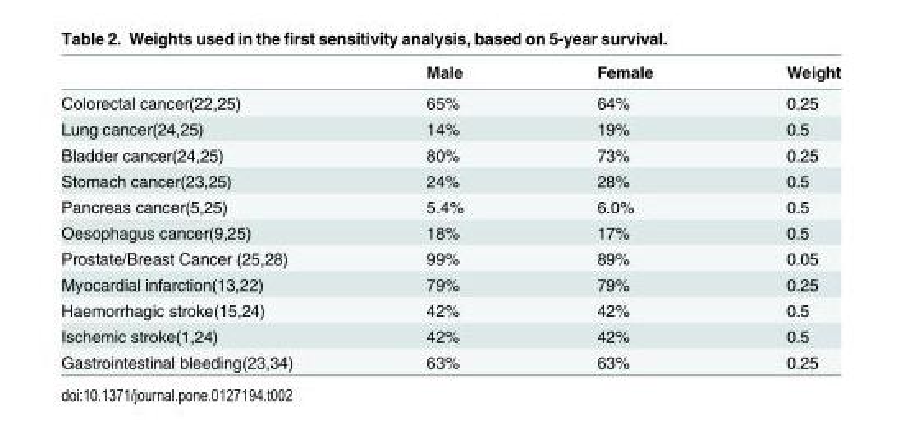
<table><thead><tr><td></td><td>Male</td><td>Female</td><td>Weight</td></tr></thead><tbody><tr><td>Colorectal cancer(22,25)</td><td>65%</td><td>64%</td><td>0.25</td></tr><tr><td>Lung cancer(24,25)</td><td>14%</td><td>19%</td><td>0.5</td></tr><tr><td>Bladder cancer(24,25)</td><td>80%</td><td>73%</td><td>0.25</td></tr><tr><td>Stomach cancer(23,25)</td><td>24%</td><td>28%</td><td>0.5</td></tr><tr><td>Pancreas cancer(5,25)</td><td>5.4%</td><td>6.0%</td><td>0.5</td></tr><tr><td>Oesophagus cancer(9,25)</td><td>18%</td><td>17%</td><td>0.5</td></tr><tr><td>Prostate/Breast Cancer (25,28)</td><td>99%</td><td>89%</td><td>0.05</td></tr><tr><td>Myocardial infarction(13,22)</td><td>79%</td><td>79%</td><td>0.25</td></tr><tr><td>Haemorrhagic stroke(15,24)</td><td>42%</td><td>42%</td><td>0.5</td></tr><tr><td>Ischemic stroke(1,24)</td><td>42%</td><td>42%</td><td>0.5</td></tr><tr><td>Gastrointestinal bleeding(23,34)</td><td>63%</td><td>63%</td><td>0.25</td></tr></tbody></table>